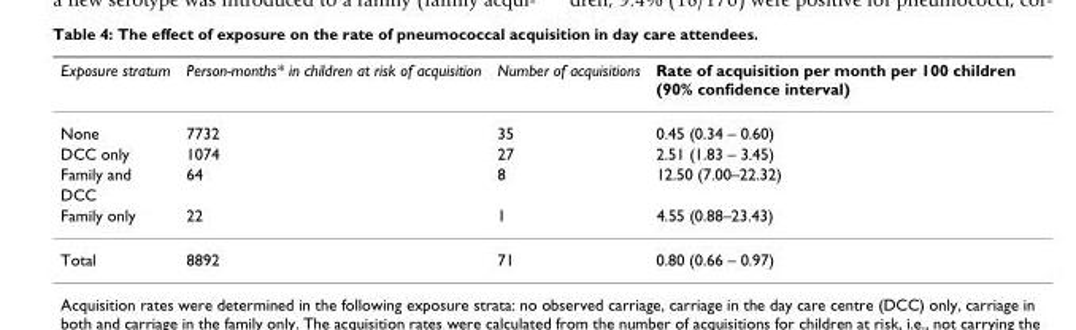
<table><thead><tr><td>Exposure stratum</td><td>Person-months* in children at risk of acquisition</td><td>Number of acquisitions</td><td>Rate of acquisition per month per 100 children (90% confidence interval)</td></tr></thead><tbody><tr><td>None</td><td>7732</td><td>35</td><td>0.45 (0.34 – 0.60)</td></tr><tr><td>DCC only</td><td>1074</td><td>27</td><td>2.51 (1.83 – 3.45)</td></tr><tr><td>Family and</td><td>64</td><td>8</td><td>12.50 (7.00–22.32)</td></tr><tr><td colspan="4">DCC</td></tr><tr><td>Family only</td><td>22</td><td>1</td><td>4.55 (0.88–23.43)</td></tr><tr><td>Total</td><td>8892</td><td>71</td><td>0.80 (0.66 – 0.97)</td></tr></tbody></table>